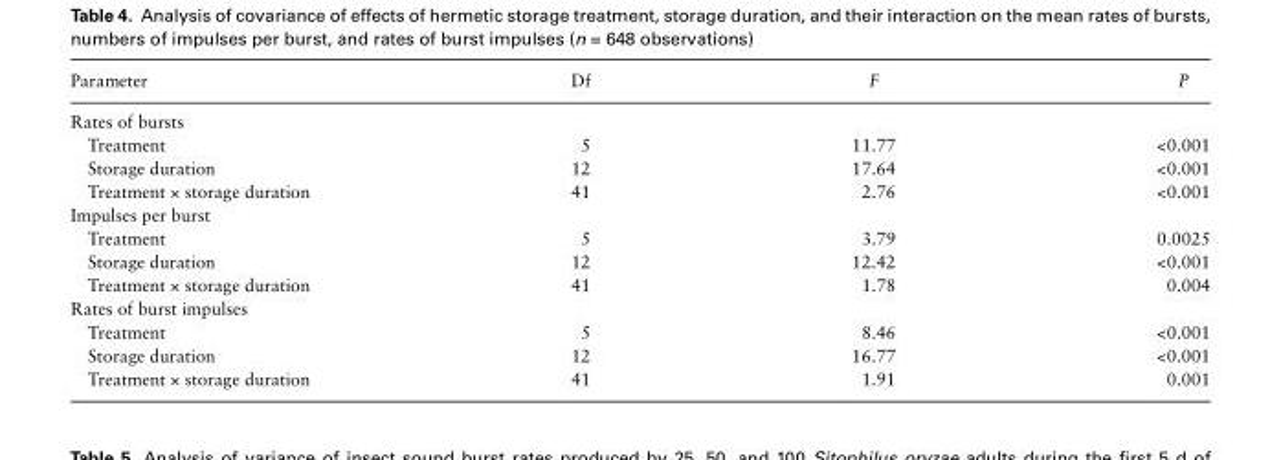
<table><thead><tr><td>Parameter</td><td>Df</td><td>F</td><td>P</td></tr></thead><tbody><tr><td colspan="4">Rates of bursts</td></tr><tr><td>Treatment</td><td>5</td><td>11.77</td><td>&lt;0.001</td></tr><tr><td>Storage duration</td><td>12</td><td>17.64</td><td>&lt;0.001</td></tr><tr><td>Treatment × storage duration</td><td>41</td><td>2.76</td><td>&lt;0.001</td></tr><tr><td colspan="4">Impulses per burst</td></tr><tr><td>Treatment</td><td>5</td><td>3.79</td><td>0.0025</td></tr><tr><td>Storage duration</td><td>12</td><td>12.42</td><td>&lt;0.001</td></tr><tr><td>Treatment × storage duration</td><td>41</td><td>1.78</td><td>0.004</td></tr><tr><td colspan="4">Rates of burst impulses</td></tr><tr><td>Treatment</td><td>5</td><td>8.46</td><td>&lt;0.001</td></tr><tr><td>Storage duration</td><td>12</td><td>16.77</td><td>&lt;0.001</td></tr><tr><td>Treatment × storage duration</td><td>41</td><td>1.91</td><td>0.001</td></tr></tbody></table>